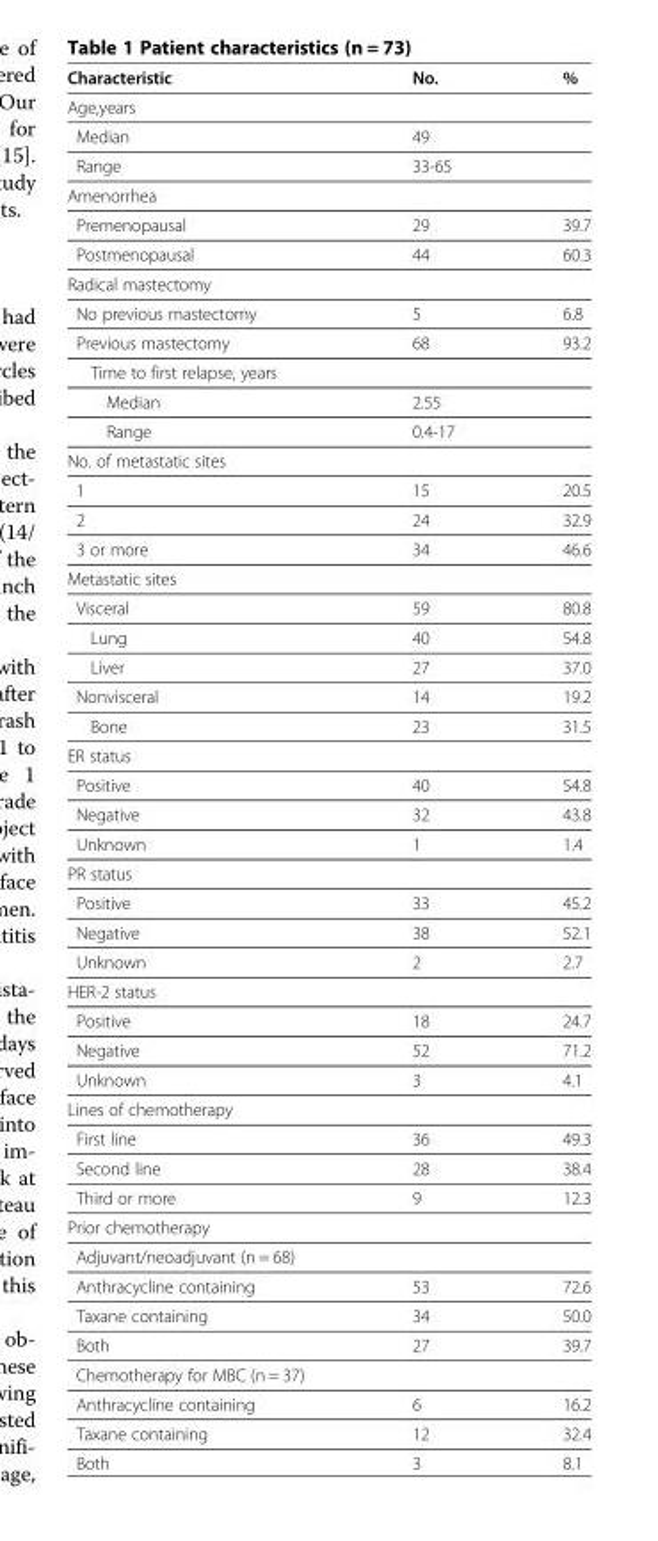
<table><thead><tr><td>Characteristic</td><td>No.</td><td>%</td></tr></thead><tbody><tr><td colspan="3">Age,years</td></tr><tr><td>Median</td><td>49</td><td></td></tr><tr><td>Range</td><td>33-65</td><td></td></tr><tr><td colspan="3">Amenorrhea</td></tr><tr><td>Premenopausal</td><td>29</td><td>39.7</td></tr><tr><td>Postmenopausal</td><td>44</td><td>60.3</td></tr><tr><td colspan="3">Radical mastectomy</td></tr><tr><td>No previous mastectomy</td><td>5</td><td>6.8</td></tr><tr><td>Previous mastectomy</td><td>68</td><td>93.2</td></tr><tr><td colspan="3">Time to first relapse, years</td></tr><tr><td>Median</td><td>2.55</td><td></td></tr><tr><td>Range</td><td>0.4-17</td><td></td></tr><tr><td colspan="3">No. of metastatic sites</td></tr><tr><td>1</td><td>15</td><td>20.5</td></tr><tr><td>2</td><td>24</td><td>32.9</td></tr><tr><td>3 or more</td><td>34</td><td>46.6</td></tr><tr><td colspan="3">Metastatic sites</td></tr><tr><td>Visceral</td><td>59</td><td>80.8</td></tr><tr><td>Lung</td><td>40</td><td>54.8</td></tr><tr><td>Liver</td><td>27</td><td>37.0</td></tr><tr><td>Nonvisceral</td><td>14</td><td>19.2</td></tr><tr><td>Bone</td><td>23</td><td>31.5</td></tr><tr><td colspan="3">ER status</td></tr><tr><td>Positive</td><td>40</td><td>54.8</td></tr><tr><td>Negative</td><td>32</td><td>43.8</td></tr><tr><td>Unknown</td><td>1</td><td>1.4</td></tr><tr><td colspan="3">PR status</td></tr><tr><td>Positive</td><td>33</td><td>45.2</td></tr><tr><td>Negative</td><td>38</td><td>52.1</td></tr><tr><td>Unknown</td><td>2</td><td>2.7</td></tr><tr><td colspan="3">HER-2 status</td></tr><tr><td>Positive</td><td>18</td><td>24.7</td></tr><tr><td>Negative</td><td>52</td><td>71.2</td></tr><tr><td>Unknown</td><td>3</td><td>4.1</td></tr><tr><td colspan="3">Lines of chemotherapy</td></tr><tr><td>First line</td><td>36</td><td>49.3</td></tr><tr><td>Second line</td><td>28</td><td>38.4</td></tr><tr><td>Third or more</td><td>9</td><td>12.3</td></tr><tr><td colspan="3">Prior chemotherapy</td></tr><tr><td colspan="3">Adjuvant/neoadjuvant (n = 68)</td></tr><tr><td>Anthracycline containing</td><td>53</td><td>72.6</td></tr><tr><td>Taxane containing</td><td>34</td><td>50.0</td></tr><tr><td>Both</td><td>27</td><td>39.7</td></tr><tr><td colspan="3">Chemotherapy for MBC (n = 37)</td></tr><tr><td>Anthracycline containing</td><td>6</td><td>16.2</td></tr><tr><td>Taxane containing</td><td>12</td><td>32.4</td></tr><tr><td>Both</td><td>3</td><td>8.1</td></tr></tbody></table>